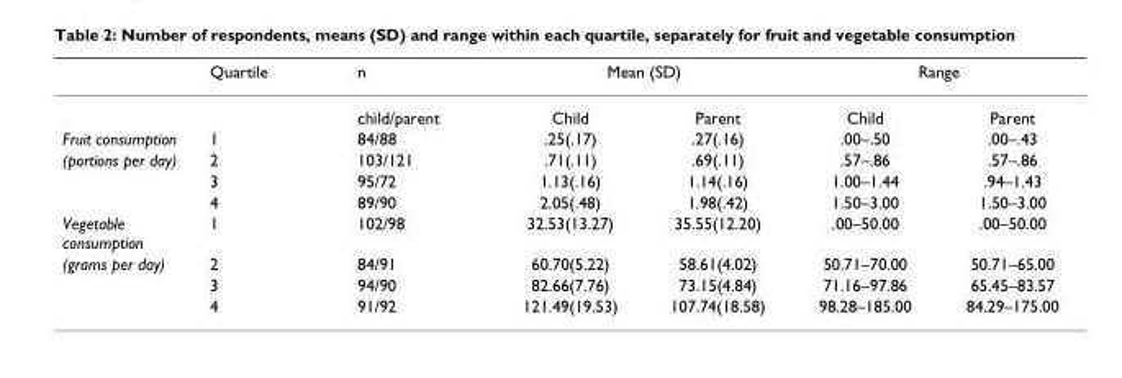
<table><thead><tr><td rowspan="2"></td><td rowspan="2">Quartile</td><td rowspan="2">n child/parent</td><td colspan="2">Mean (SD)</td><td colspan="2">Range</td></tr><tr><td>Child</td><td>Parent</td><td>Child</td><td>Parent</td></tr></thead><tbody><tr><td>Fruit consumption</td><td>1</td><td>84/88</td><td>.25(.17)</td><td>.27(.16)</td><td>.00–.50</td><td>.00–.43</td></tr><tr><td rowspan="3">(portions per day)</td><td>2</td><td>103/121</td><td>.71(.11)</td><td>.69(.11)</td><td>.57–.86</td><td>.57–.86</td></tr><tr><td>3</td><td>95/72</td><td>1.13(.16)</td><td>1.14(.16)</td><td>1.00–1.44</td><td>.94–1.43</td></tr><tr><td>4</td><td>89/90</td><td>2.05(.48)</td><td>1.98(.42)</td><td>1.50–3.00</td><td>1.50–3.00</td></tr><tr><td>Vegetable consumption</td><td>1</td><td>102/98</td><td>32.53(13.27)</td><td>35.55(12.20)</td><td>.00–50.00</td><td>.00–50.00</td></tr><tr><td rowspan="3">(grams per day)</td><td>2</td><td>84/91</td><td>60.70(5.22)</td><td>58.61(4.02)</td><td>50.71–70.00</td><td>50.71–65.00</td></tr><tr><td>3</td><td>94/90</td><td>82.66(7.76)</td><td>73.15(4.84)</td><td>71.16–97.86</td><td>65.45–83.57</td></tr><tr><td>4</td><td>91/92</td><td>121.49(19.53)</td><td>107.74(18.58)</td><td>98.28–185.00</td><td>84.29–175.00</td></tr></tbody></table>